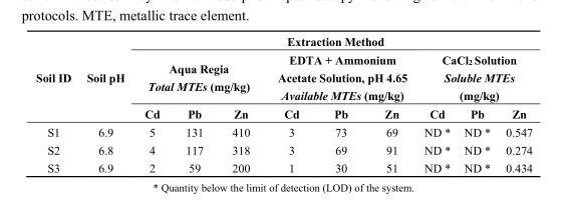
<table><thead><tr><td rowspan="3">Soil ID</td><td rowspan="3">Soil pH</td><td colspan="9">Extraction Method</td></tr><tr><td colspan="3">Aqua Regia Total MTEs (mg/kg)</td><td colspan="3">EDTA + Ammonium Acetate Solution, pH 4.65 Available MTEs (mg/kg)</td><td colspan="3">CaCl<sub>2</sub> Solution Soluble MTEs (mg/kg)</td></tr><tr><td>Cd</td><td>Pb</td><td>Zn</td><td>Cd</td><td>Pb</td><td>Zn</td><td>Cd</td><td>Pb</td><td>Zn</td></tr></thead><tbody><tr><td>S1</td><td>6.9</td><td>5</td><td>131</td><td>410</td><td>3</td><td>73</td><td>69</td><td>ND *</td><td>ND *</td><td>0.547</td></tr><tr><td>S2</td><td>6.8</td><td>4</td><td>117</td><td>318</td><td>3</td><td>69</td><td>91</td><td>ND *</td><td>ND *</td><td>0.274</td></tr><tr><td>S3</td><td>6.9</td><td>2</td><td>59</td><td>200</td><td>1</td><td>30</td><td>51</td><td>ND *</td><td>ND *</td><td>0.434</td></tr></tbody></table>